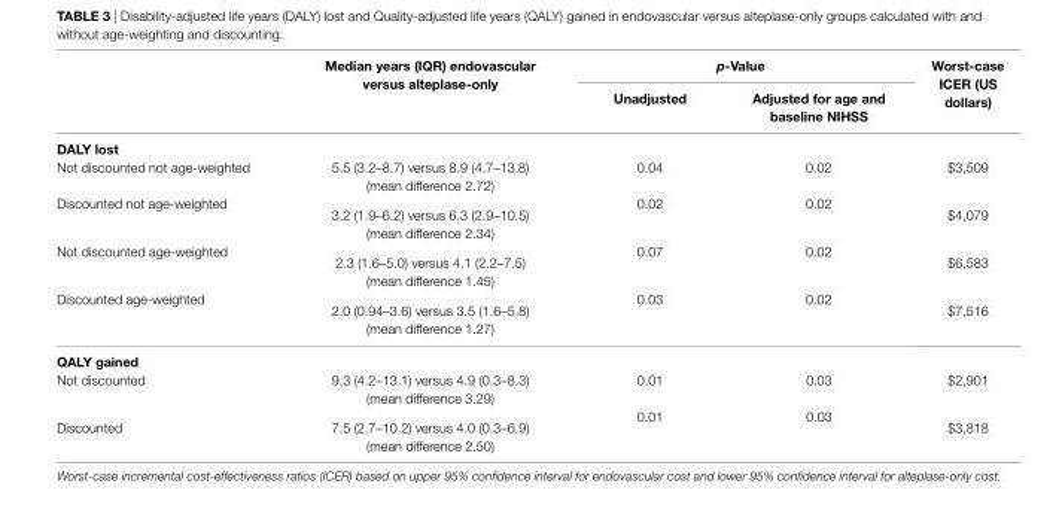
<table><thead><tr><td rowspan="2"></td><td rowspan="2">Median years (iQr) endovascular versus alteplase-only</td><td colspan="2">p-Value</td><td rowspan="2">Worst-case icer (Us dollars)</td></tr><tr><td>Unadjusted</td><td>adjusted for age and baseline nihss</td></tr></thead><tbody><tr><td colspan="5">DalY lost</td></tr><tr><td>Not discounted not age-weighted</td><td>5.5 (3.2–8.7) versus 8.9 (4.7–13.8) (mean difference 2.72)</td><td>0.04</td><td>0.02</td><td>$3,509</td></tr><tr><td>Discounted not age-weighted</td><td>3.2 (1.9–6.2) versus 6.3 (2.9–10.5) (mean difference 2.34)</td><td>0.02</td><td>0.02</td><td>$4,079</td></tr><tr><td>Not discounted age-weighted</td><td>2.3 (1.6–5.0) versus 4.1 (2.2–7.5) (mean difference 1.45)</td><td>0.07</td><td>0.02</td><td>$6,583</td></tr><tr><td>Discounted age-weighted</td><td>2.0 (0.94–3.6) versus 3.5 (1.6–5.8) (mean difference 1.27)</td><td>0.03</td><td>0.02</td><td>$7,516</td></tr><tr><td colspan="5">QalY gained</td></tr><tr><td>Not discounted</td><td>9.3 (4.2–13.1) versus 4.9 (0.3–8.3) (mean difference 3.29)</td><td>0.01</td><td>0.03</td><td>$2,901</td></tr><tr><td>Discounted</td><td>7.5 (2.7–10.2) versus 4.0 (0.3–6.9) (mean difference 2.50)</td><td>0.01</td><td>0.03</td><td>$3,818</td></tr></tbody></table>